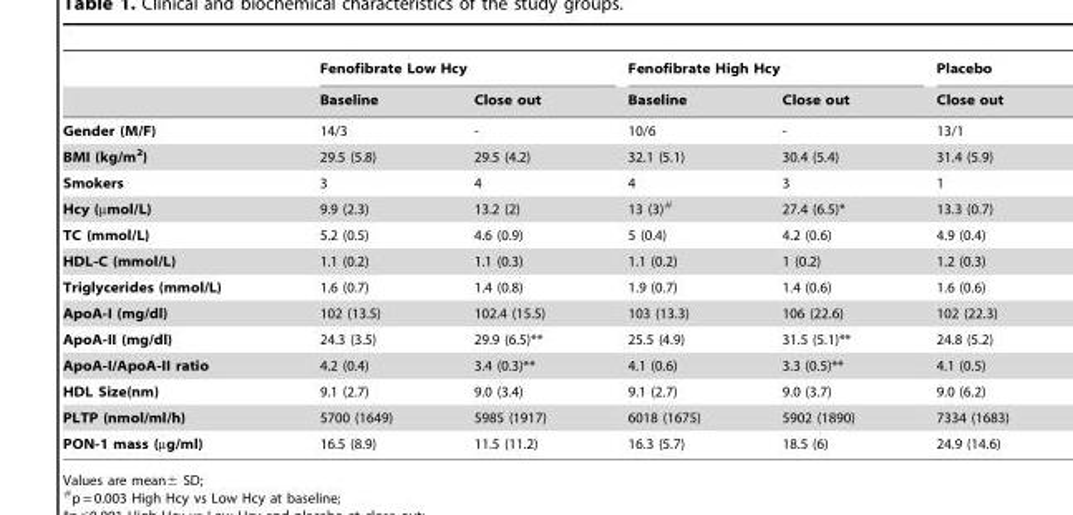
<table><thead><tr><td rowspan="2"></td><td colspan="2">Fenofibrate Low Hcy</td><td colspan="2">Fenofibrate High Hcy</td><td rowspan="2">Placebo Close out</td></tr><tr><td>Baseline</td><td>Close out</td><td>Baseline</td><td>Close out</td></tr></thead><tbody><tr><td>Gender (M/F)</td><td>14/3</td><td>-</td><td>10/6</td><td>-</td><td>13/1</td></tr><tr><td>BMI (kg/m<sup>2</sup>)</td><td>29.5 (5.8)</td><td>29.5 (4.2)</td><td>32.1 (5.1)</td><td>30.4 (5.4)</td><td>31.4 (5.9)</td></tr><tr><td>Smokers</td><td>3</td><td>4</td><td>4</td><td>3</td><td>1</td></tr><tr><td>Hcy (µmol/L)</td><td>9.9 (2.3)</td><td>13.2 (2)</td><td>13 (3)#</td><td>27.4 (6.5)*</td><td>13.3 (0.7)</td></tr><tr><td>TC (mmol/L)</td><td>5.2 (0.5)</td><td>4.6 (0.9)</td><td>5 (0.4)</td><td>4.2 (0.6)</td><td>4.9 (0.4)</td></tr><tr><td>HDL-C (mmol/L)</td><td>1.1 (0.2)</td><td>1.1 (0.3)</td><td>1.1 (0.2)</td><td>1 (0.2)</td><td>1.2 (0.3)</td></tr><tr><td>Triglycerides (mmol/L)</td><td>1.6 (0.7)</td><td>1.4 (0.8)</td><td>1.9 (0.7)</td><td>1.4 (0.6)</td><td>1.6 (0.6)</td></tr><tr><td>ApoA-I (mg/dl)</td><td>102 (13.5)</td><td>102.4 (15.5)</td><td>103 (13.3)</td><td>106 (22.6)</td><td>102 (22.3)</td></tr><tr><td>ApoA-II (mg/dl)</td><td>24.3 (3.5)</td><td>29.9 (6.5)**</td><td>25.5 (4.9)</td><td>31.5 (5.1)**</td><td>24.8 (5.2)</td></tr><tr><td>ApoA-I/ApoA-II ratio</td><td>4.2 (0.4)</td><td>3.4 (0.3)**</td><td>4.1 (0.6)</td><td>3.3 (0.5)**</td><td>4.1 (0.5)</td></tr><tr><td>HDL Size(nm)</td><td>9.1 (2.7)</td><td>9.0 (3.4)</td><td>9.1 (2.7)</td><td>9.0 (3.7)</td><td>9.0 (6.2)</td></tr><tr><td>PLTP (nmol/ml/h)</td><td>5700 (1649)</td><td>5985 (1917)</td><td>6018 (1675)</td><td>5902 (1890)</td><td>7334 (1683)</td></tr><tr><td>PON-1 mass (µg/ml)</td><td>16.5 (8.9)</td><td>11.5 (11.2)</td><td>16.3 (5.7)</td><td>18.5 (6)</td><td>24.9 (14.6)</td></tr></tbody></table>